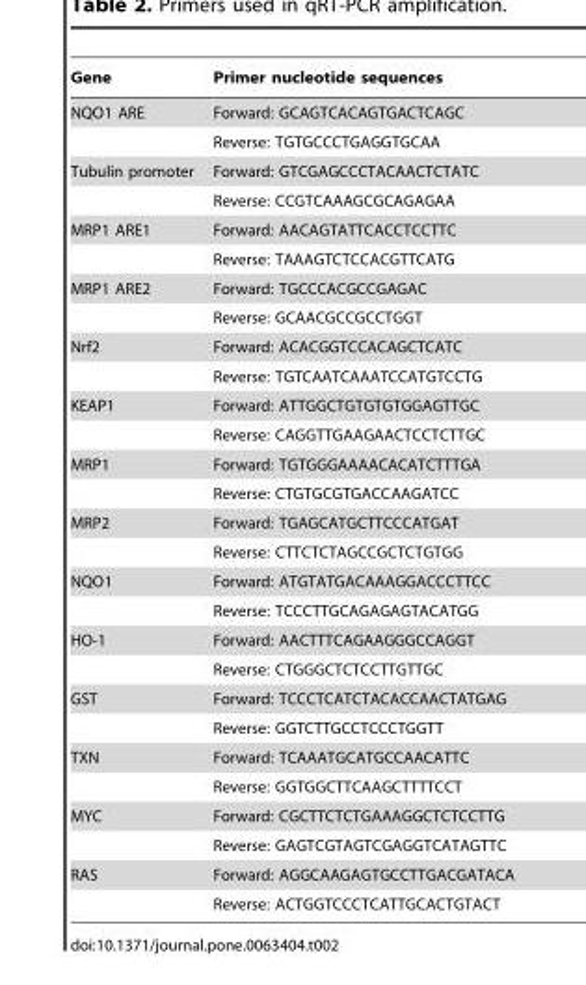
<table><thead><tr><td>Gene</td><td>Primer nucleotide sequences</td></tr></thead><tbody><tr><td rowspan="2">NQO1 ARE</td><td>Forward: GCAGTCACAGTGACTCAGC</td></tr><tr><td>Reverse: TGTGCCCTGAGGTGCAA</td></tr><tr><td rowspan="2">Tubulin promoter</td><td>Forward: GTCGAGCCCTACAACTCTATC</td></tr><tr><td>Reverse: CCGTCAAAGCGCAGAGAA</td></tr><tr><td rowspan="2">MRP1 ARE1</td><td>Forward: AACAGTATTCACCTCCTTC</td></tr><tr><td>Reverse: TAAAGTCTCCACGTTCATG</td></tr><tr><td rowspan="2">MRP1 ARE2</td><td>Forward: TGCCCACGCCGAGAC</td></tr><tr><td>Reverse: GCAACGCCGCCTGGT</td></tr><tr><td rowspan="2">Nrf2</td><td>Forward: ACACGGTCCACAGCTCATC</td></tr><tr><td>Reverse: TGTCAATCAAATCCATGTCCTG</td></tr><tr><td rowspan="2">KEAP1</td><td>Forward: ATTGGCTGTGTGTGGAGTTGC</td></tr><tr><td>Reverse: CAGGTTGAAGAACTCCTCTTGC</td></tr><tr><td rowspan="2">MRP1</td><td>Forward: TGTGGGAAAACACATCTTTGA</td></tr><tr><td>Reverse: CTGTGCGTGACCAAGATCC</td></tr><tr><td rowspan="2">MRP2</td><td>Forward: TGAGCATGCTTCCCATGAT</td></tr><tr><td>Reverse: CTTCTCTAGCCGCTCTGTGG</td></tr><tr><td rowspan="2">NQO1</td><td>Forward: ATGTATGACAAAGGACCCTTCC</td></tr><tr><td>Reverse: TCCCTTGCAGAGAGTACATGG</td></tr><tr><td rowspan="2">HO-1</td><td>Forward: AACTTTCAGAAGGGCCAGGT</td></tr><tr><td>Reverse: CTGGGCTCTCCTTGTTGC</td></tr><tr><td rowspan="2">GST</td><td>Forward: TCCCTCATCTACACCAACTATGAG</td></tr><tr><td>Reverse: GGTCTTGCCTCCCTGGTT</td></tr><tr><td rowspan="2">TXN</td><td>Forward: TCAAATGCATGCCAACATTC</td></tr><tr><td>Reverse: GGTGGCTTCAAGCTTTTCCT</td></tr><tr><td rowspan="2">MYC</td><td>Forward: CGCTTCTCTGAAAGGCTCTCCTTG</td></tr><tr><td>Reverse: GAGTCGTAGTCGAGGTCATAGTTC</td></tr><tr><td rowspan="2">RAS</td><td>Forward: AGGCAAGAGTGCCTTGACGATACA</td></tr><tr><td>Reverse: ACTGGTCCCTCATTGCACTGTACT</td></tr></tbody></table>